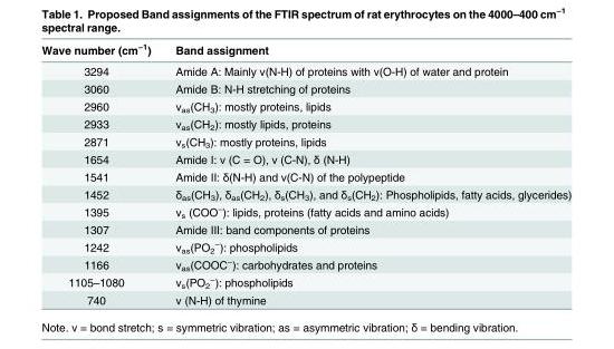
<table><thead><tr><td>Wave number (cm<sup>−1</sup>)</td><td>Band assignment</td></tr></thead><tbody><tr><td>3294</td><td>Amide A: Mainly ν(N-H) of proteins with ν(O-H) of water and protein</td></tr><tr><td>3060</td><td>Amide B: N-H stretching of proteins</td></tr><tr><td>2960</td><td>ν<sub>as</sub>(CH<sub>3</sub>): mostly proteins, lipids</td></tr><tr><td>2933</td><td>ν<sub>as</sub>(CH<sub>2</sub>): mostly lipids, proteins</td></tr><tr><td>2871</td><td>ν<sub>s</sub>(CH<sub>3</sub>): mostly proteins, lipids</td></tr><tr><td>1654</td><td>Amide I: ν (C = O), ν (C-N), δ (N-H)</td></tr><tr><td>1541</td><td>Amide II: δ(N-H) and ν(C-N) of the polypeptide</td></tr><tr><td>1452</td><td>δ<sub>as</sub>(CH<sub>3</sub>), δ<sub>as</sub>(CH<sub>2</sub>), δ<sub>s</sub>(CH<sub>3</sub>), and δ<sub>s</sub>(CH<sub>2</sub>): Phospholipids, fatty acids, glycerides)</td></tr><tr><td>1395</td><td>ν<sub>s</sub> (COO<sup>−</sup>): lipids, proteins (fatty acids and amino acids)</td></tr><tr><td>1307</td><td>Amide III: band components of proteins</td></tr><tr><td>1242</td><td>ν<sub>as</sub>(PO<sub>2</sub> <sup>−</sup>): phospholipids</td></tr><tr><td>1166</td><td>ν<sub>as</sub>(COOC<sup>−</sup>): carbohydrates and proteins</td></tr><tr><td>1105–1080</td><td>ν<sub>s</sub>(PO<sub>2</sub> <sup>−</sup>): phospholipids</td></tr><tr><td>740</td><td>ν (N-H) of thymine</td></tr></tbody></table>